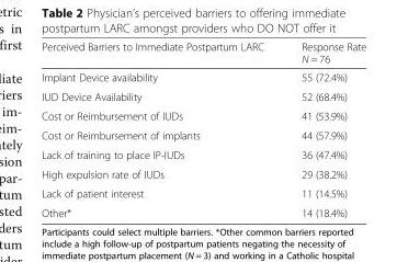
<table><thead><tr><td>Perceived Barriers to Immediate Postpartum LARC</td><td>Response Rate N = 76</td></tr></thead><tbody><tr><td>Implant Device availability</td><td>55 (72.4%)</td></tr><tr><td>IUD Device Availability</td><td>52 (68.4%)</td></tr><tr><td>Cost or Reimbursement of IUDs</td><td>41 (53.9%)</td></tr><tr><td>Cost or Reimbursement of implants</td><td>44 (57.9%)</td></tr><tr><td>Lack of training to place IP-IUDs</td><td>36 (47.4%)</td></tr><tr><td>High expulsion rate of IUDs</td><td>29 (38.2%)</td></tr><tr><td>Lack of patient interest</td><td>11 (14.5%)</td></tr><tr><td>Other*</td><td>14 (18.4%)</td></tr></tbody></table>